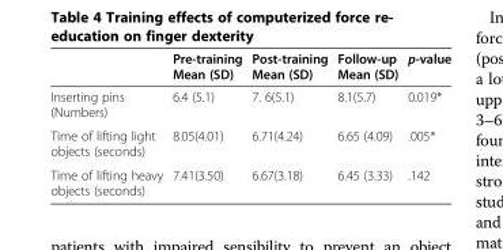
<table><thead><tr><td></td><td>Pre-training Mean (SD)</td><td>Post-training Mean (SD)</td><td>Follow-up Mean (SD)</td><td>p-value</td></tr></thead><tbody><tr><td>Inserting pins (Numbers)</td><td>6.4 (5.1)</td><td>7. 6(5.1)</td><td>8.1(5.7)</td><td>0.019*</td></tr><tr><td>Time of lifting light objects (seconds)</td><td>8.05(4.01)</td><td>6.71(4.24)</td><td>6.65 (4.09)</td><td>.005*</td></tr><tr><td>Time of lifting heavy objects (seconds)</td><td>7.41(3.50)</td><td>6.67(3.18)</td><td>6.45 (3.33)</td><td>.142</td></tr></tbody></table>